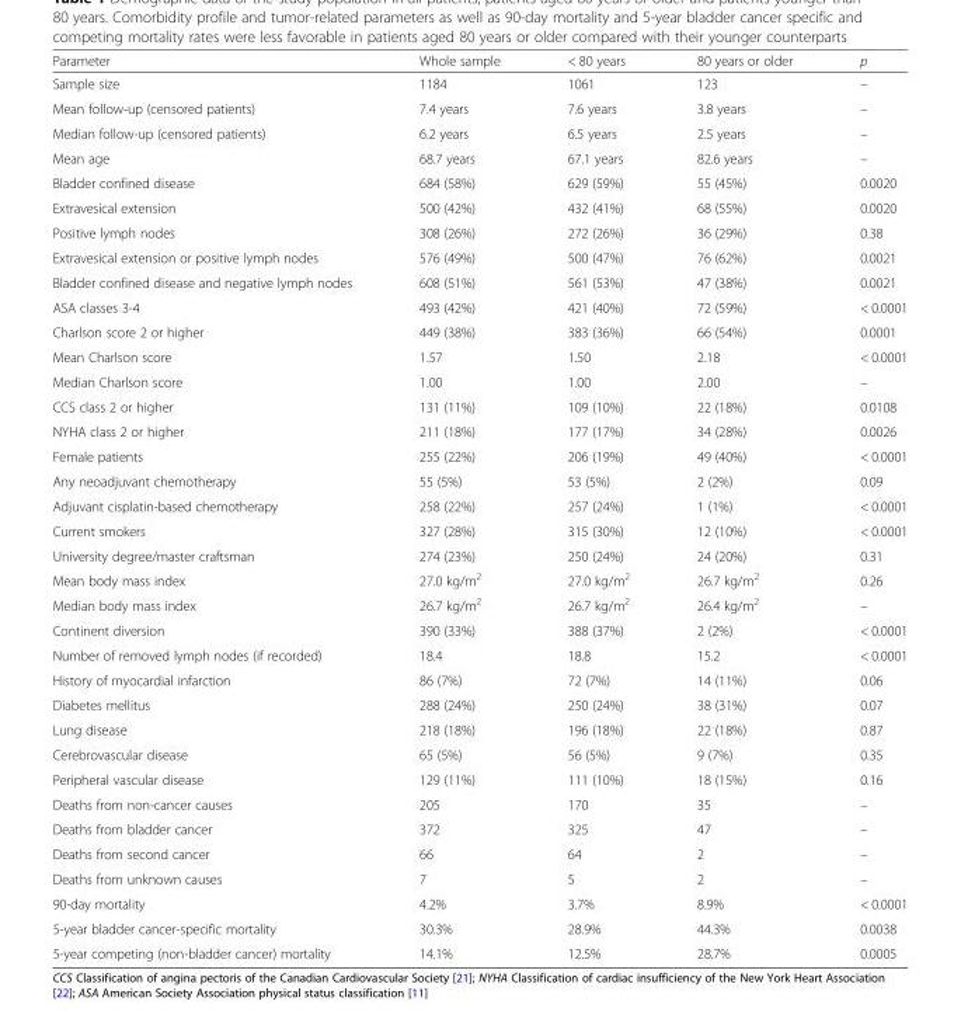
<table><thead><tr><td>Parameter</td><td>Whole sample</td><td>&lt; 80 years</td><td>80 years or older</td><td>p</td></tr></thead><tbody><tr><td>Sample size</td><td>1184</td><td>1061</td><td>123</td><td>–</td></tr><tr><td>Mean follow-up (censored patients)</td><td>7.4 years</td><td>7.6 years</td><td>3.8 years</td><td>–</td></tr><tr><td>Median follow-up (censored patients)</td><td>6.2 years</td><td>6.5 years</td><td>2.5 years</td><td>–</td></tr><tr><td>Mean age</td><td>68.7 years</td><td>67.1 years</td><td>82.6 years</td><td>–</td></tr><tr><td>Bladder confined disease</td><td>684 (58%)</td><td>629 (59%)</td><td>55 (45%)</td><td>0.0020</td></tr><tr><td>Extravesical extension</td><td>500 (42%)</td><td>432 (41%)</td><td>68 (55%)</td><td>0.0020</td></tr><tr><td>Positive lymph nodes</td><td>308 (26%)</td><td>272 (26%)</td><td>36 (29%)</td><td>0.38</td></tr><tr><td>Extravesical extension or positive lymph nodes</td><td>576 (49%)</td><td>500 (47%)</td><td>76 (62%)</td><td>0.0021</td></tr><tr><td>Bladder confined disease and negative lymph nodes</td><td>608 (51%)</td><td>561 (53%)</td><td>47 (38%)</td><td>0.0021</td></tr><tr><td>ASA classes 3-4</td><td>493 (42%)</td><td>421 (40%)</td><td>72 (59%)</td><td>&lt; 0.0001</td></tr><tr><td>Charlson score 2 or higher</td><td>449 (38%)</td><td>383 (36%)</td><td>66 (54%)</td><td>0.0001</td></tr><tr><td>Mean Charlson score</td><td>1.57</td><td>1.50</td><td>2.18</td><td>&lt; 0.0001</td></tr><tr><td>Median Charlson score</td><td>1.00</td><td>1.00</td><td>2.00</td><td>–</td></tr><tr><td>CCS class 2 or higher</td><td>131 (11%)</td><td>109 (10%)</td><td>22 (18%)</td><td>0.0108</td></tr><tr><td>NYHA class 2 or higher</td><td>211 (18%)</td><td>177 (17%)</td><td>34 (28%)</td><td>0.0026</td></tr><tr><td>Female patients</td><td>255 (22%)</td><td>206 (19%)</td><td>49 (40%)</td><td>&lt; 0.0001</td></tr><tr><td>Any neoadjuvant chemotherapy</td><td>55 (5%)</td><td>53 (5%)</td><td>2 (2%)</td><td>0.09</td></tr><tr><td>Adjuvant cisplatin-based chemotherapy</td><td>258 (22%)</td><td>257 (24%)</td><td>1 (1%)</td><td>&lt; 0.0001</td></tr><tr><td>Current smokers</td><td>327 (28%)</td><td>315 (30%)</td><td>12 (10%)</td><td>&lt; 0.0001</td></tr><tr><td>University degree/master craftsman</td><td>274 (23%)</td><td>250 (24%)</td><td>24 (20%)</td><td>0.31</td></tr><tr><td>Mean body mass index</td><td>27.0 kg/m<sup>2</sup></td><td>27.0 kg/m<sup>2</sup></td><td>26.7 kg/m<sup>2</sup></td><td>0.26</td></tr><tr><td>Median body mass index</td><td>26.7 kg/m<sup>2</sup></td><td>26.7 kg/m<sup>2</sup></td><td>26.4 kg/m<sup>2</sup></td><td>–</td></tr><tr><td>Continent diversion</td><td>390 (33%)</td><td>388 (37%)</td><td>2 (2%)</td><td>&lt; 0.0001</td></tr><tr><td>Number of removed lymph nodes (if recorded)</td><td>18.4</td><td>18.8</td><td>15.2</td><td>&lt; 0.0001</td></tr><tr><td>History of myocardial infarction</td><td>86 (7%)</td><td>72 (7%)</td><td>14 (11%)</td><td>0.06</td></tr><tr><td>Diabetes mellitus</td><td>288 (24%)</td><td>250 (24%)</td><td>38 (31%)</td><td>0.07</td></tr><tr><td>Lung disease</td><td>218 (18%)</td><td>196 (18%)</td><td>22 (18%)</td><td>0.87</td></tr><tr><td>Cerebrovascular disease</td><td>65 (5%)</td><td>56 (5%)</td><td>9 (7%)</td><td>0.35</td></tr><tr><td>Peripheral vascular disease</td><td>129 (11%)</td><td>111 (10%)</td><td>18 (15%)</td><td>0.16</td></tr><tr><td>Deaths from non-cancer causes</td><td>205</td><td>170</td><td>35</td><td>–</td></tr><tr><td>Deaths from bladder cancer</td><td>372</td><td>325</td><td>47</td><td>–</td></tr><tr><td>Deaths from second cancer</td><td>66</td><td>64</td><td>2</td><td>–</td></tr><tr><td>Deaths from unknown causes</td><td>7</td><td>5</td><td>2</td><td>–</td></tr><tr><td>90-day mortality</td><td>4.2%</td><td>3.7%</td><td>8.9%</td><td>&lt; 0.0001</td></tr><tr><td>5-year bladder cancer-specific mortality</td><td>30.3%</td><td>28.9%</td><td>44.3%</td><td>0.0038</td></tr><tr><td>5-year competing (non-bladder cancer) mortality</td><td>14.1%</td><td>12.5%</td><td>28.7%</td><td>0.0005</td></tr></tbody></table>